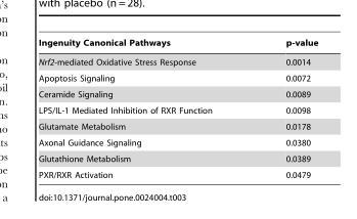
<table><thead><tr><td>Ingenuity Canonical Pathways</td><td>p-value</td></tr></thead><tbody><tr><td>Nrf2-mediated Oxidative Stress Response</td><td>0.0014</td></tr><tr><td>Apoptosis Signaling</td><td>0.0072</td></tr><tr><td>Ceramide Signaling</td><td>0.0089</td></tr><tr><td>LPS/IL-1 Mediated Inhibition of RXR Function</td><td>0.0098</td></tr><tr><td>Glutamate Metabolism</td><td>0.0178</td></tr><tr><td>Axonal Guidance Signaling</td><td>0.0380</td></tr><tr><td>Glutathione Metabolism</td><td>0.0389</td></tr><tr><td>PXR/RXR Activation</td><td>0.0479</td></tr></tbody></table>